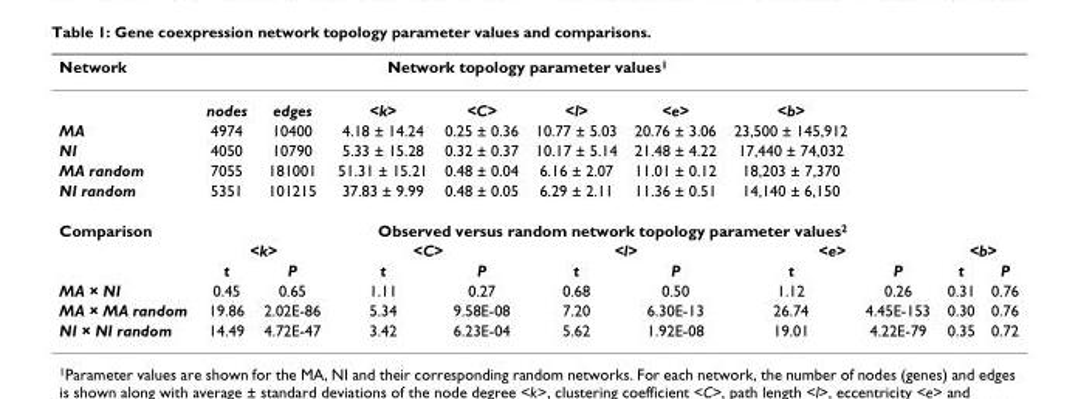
<table><thead><tr><td rowspan="2">Network</td><td colspan="7">Network topology parameter values<sup>1</sup></td><td rowspan="2"></td><td rowspan="2"></td><td rowspan="2"></td></tr><tr><td>nodes</td><td>edges</td><td>&lt;k&gt;</td><td>&lt;C&gt;</td><td>&lt;l&gt;</td><td>&lt;e&gt;</td><td>&lt;b&gt;</td></tr></thead><tbody><tr><td>MA</td><td>4974</td><td>10400</td><td>4.18 ± 14.24</td><td>0.25 ± 0.36</td><td>10.77 ± 5.03</td><td>20.76 ± 3.06</td><td>23,500 ± 145,912</td><td></td><td></td><td></td></tr><tr><td>NI</td><td>4050</td><td>10790</td><td>5.33 ± 15.28</td><td>0.32 ± 0.37</td><td>10.17 ± 5.14</td><td>21.48 ± 4.22</td><td>17,440 ± 74,032</td><td></td><td></td><td></td></tr><tr><td>MA random</td><td>7055</td><td>181001</td><td>51.31 ± 15.21</td><td>0.48 ± 0.04</td><td>6.16 ± 2.07</td><td>11.01 ± 0.12</td><td>18,203 ± 7,370</td><td></td><td></td><td></td></tr><tr><td>NI random</td><td>5351</td><td>101215</td><td>37.83 ± 9.99</td><td>0.48 ± 0.05</td><td>6.29 ± 2.11</td><td>11.36 ± 0.51</td><td>14,140 ± 6,150</td><td></td><td></td><td></td></tr><tr><td rowspan="3">Comparison</td><td colspan="10">Observed versus random network topology parameter values<sup>2</sup></td></tr><tr><td colspan="2">&lt;k&gt;</td><td colspan="2">&lt;C&gt;</td><td colspan="2">&lt;l&gt;</td><td colspan="2">&lt;e&gt;</td><td colspan="2">&lt;b&gt;</td></tr><tr><td>t</td><td>P</td><td>t</td><td>P</td><td>t</td><td>P</td><td>t</td><td>P</td><td>t</td><td>P</td></tr><tr><td>MA × NI</td><td>0.45</td><td>0.65</td><td>1.11</td><td>0.27</td><td>0.68</td><td>0.50</td><td>1.12</td><td>0.26</td><td>0.31</td><td>0.76</td></tr><tr><td>MA × MA random</td><td>19.86</td><td>2.02E-86</td><td>5.34</td><td>9.58E-08</td><td>7.20</td><td>6.30E-13</td><td>26.74</td><td>4.45E-153</td><td>0.30</td><td>0.76</td></tr><tr><td>NI × NI random</td><td>14.49</td><td>4.72E-47</td><td>3.42</td><td>6.23E-04</td><td>5.62</td><td>1.92E-08</td><td>19.01</td><td>4.22E-79</td><td>0.35</td><td>0.72</td></tr></tbody></table>